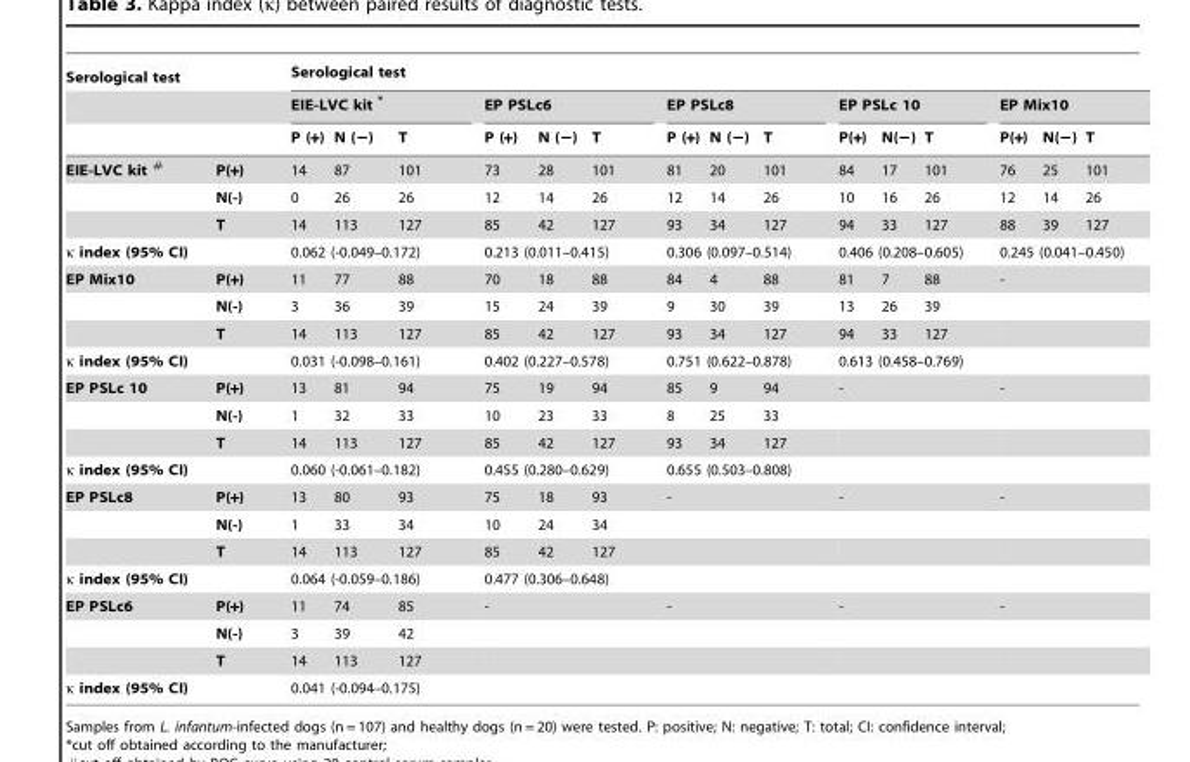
<table><thead><tr><td colspan="2">Serological test</td><td colspan="15">Serological test</td></tr><tr><td rowspan="2"></td><td rowspan="2"></td><td colspan="3">EIE-LVC kit *</td><td colspan="3">EP PSLc6</td><td colspan="3">EP PSLc8</td><td colspan="3">EP PSLc 10</td><td colspan="3">EP Mix10</td></tr><tr><td>P (+)</td><td>N (−)</td><td>T</td><td>P (+)</td><td>N (−)</td><td>T</td><td>P (+)</td><td>N (−)</td><td>T</td><td>P(+)</td><td>N(−)</td><td>T</td><td>P(+)</td><td>N(−)</td><td>T</td></tr></thead><tbody><tr><td rowspan="3">EIE-LVC kit #</td><td>P(+)</td><td>14</td><td>87</td><td>101</td><td>73</td><td>28</td><td>101</td><td>81</td><td>20</td><td>101</td><td>84</td><td>17</td><td>101</td><td>76</td><td>25</td><td>101</td></tr><tr><td>N(-)</td><td>0</td><td>26</td><td>26</td><td>12</td><td>14</td><td>26</td><td>12</td><td>14</td><td>26</td><td>10</td><td>16</td><td>26</td><td>12</td><td>14</td><td>26</td></tr><tr><td>T</td><td>14</td><td>113</td><td>127</td><td>85</td><td>42</td><td>127</td><td>93</td><td>34</td><td>127</td><td>94</td><td>33</td><td>127</td><td>88</td><td>39</td><td>127</td></tr><tr><td>κ index (95% CI)</td><td></td><td colspan="3">0.062 (-0.049–0.172)</td><td colspan="3">0.213 (0.011–0.415)</td><td colspan="3">0.306 (0.097–0.514)</td><td colspan="3">0.406 (0.208–0.605)</td><td colspan="3">0.245 (0.041–0.450)</td></tr><tr><td rowspan="3">EP Mix10</td><td>P(+)</td><td>11</td><td>77</td><td>88</td><td>70</td><td>18</td><td>88</td><td>84</td><td>4</td><td>88</td><td>81</td><td>7</td><td>88</td><td colspan="3">-</td></tr><tr><td>N(-)</td><td>3</td><td>36</td><td>39</td><td>15</td><td>24</td><td>39</td><td>9</td><td>30</td><td>39</td><td>13</td><td>26</td><td>39</td><td colspan="3"></td></tr><tr><td>T</td><td>14</td><td>113</td><td>127</td><td>85</td><td>42</td><td>127</td><td>93</td><td>34</td><td>127</td><td>94</td><td>33</td><td>127</td><td colspan="3"></td></tr><tr><td>κ index (95% CI)</td><td></td><td colspan="3">0.031 (-0.098–0.161)</td><td colspan="3">0.402 (0.227–0.578)</td><td colspan="3">0.751 (0.622–0.878)</td><td colspan="3">0.613 (0.458–0.769)</td><td colspan="3"></td></tr><tr><td rowspan="3">EP PSLc 10</td><td>P(+)</td><td>13</td><td>81</td><td>94</td><td>75</td><td>19</td><td>94</td><td>85</td><td>9</td><td>94</td><td colspan="3">-</td><td colspan="3">-</td></tr><tr><td>N(-)</td><td>1</td><td>32</td><td>33</td><td>10</td><td>23</td><td>33</td><td>8</td><td>25</td><td>33</td><td colspan="3"></td><td colspan="3"></td></tr><tr><td>T</td><td>14</td><td>113</td><td>127</td><td>85</td><td>42</td><td>127</td><td>93</td><td>34</td><td>127</td><td colspan="3"></td><td colspan="3"></td></tr><tr><td>κ index (95% CI)</td><td></td><td colspan="3">0.060 (-0.061–0.182)</td><td colspan="3">0.455 (0.280–0.629)</td><td colspan="3">0.655 (0.503–0.808)</td><td colspan="3"></td><td colspan="3"></td></tr><tr><td rowspan="3">EP PSLc8</td><td>P(+)</td><td>13</td><td>80</td><td>93</td><td>75</td><td>18</td><td>93</td><td colspan="3">-</td><td colspan="3">-</td><td colspan="3">-</td></tr><tr><td>N(-)</td><td>1</td><td>33</td><td>34</td><td>10</td><td>24</td><td>34</td><td colspan="3"></td><td colspan="3"></td><td colspan="3"></td></tr><tr><td>T</td><td>14</td><td>113</td><td>127</td><td>85</td><td>42</td><td>127</td><td colspan="3"></td><td colspan="3"></td><td colspan="3"></td></tr><tr><td>κ index (95% CI)</td><td></td><td colspan="3">0.064 (-0.059–0.186)</td><td colspan="3">0.477 (0.306–0.648)</td><td colspan="3"></td><td colspan="3"></td><td colspan="3"></td></tr><tr><td rowspan="3">EP PSLc6</td><td>P(+)</td><td>11</td><td>74</td><td>85</td><td colspan="3">-</td><td colspan="3">-</td><td colspan="3">-</td><td colspan="3">-</td></tr><tr><td>N(-)</td><td>3</td><td>39</td><td>42</td><td colspan="3"></td><td colspan="3"></td><td colspan="3"></td><td colspan="3"></td></tr><tr><td>T</td><td>14</td><td>113</td><td>127</td><td colspan="3"></td><td colspan="3"></td><td colspan="3"></td><td colspan="3"></td></tr><tr><td>κ index (95% CI)</td><td></td><td colspan="3">0.041 (-0.094–0.175)</td><td colspan="3"></td><td colspan="3"></td><td colspan="3"></td><td colspan="3"></td></tr></tbody></table>